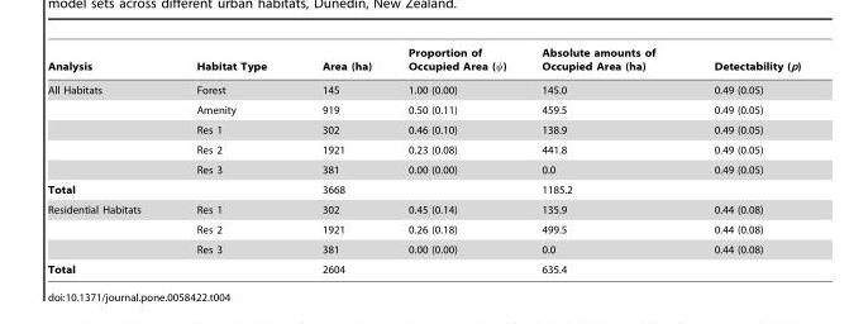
<table><thead><tr><td>Analysis</td><td>Habitat Type</td><td>Area (ha)</td><td>Proportion of Occupied Area (y)</td><td>Absolute amounts of Occupied Area (ha)</td><td>Detectability (p)</td></tr></thead><tbody><tr><td rowspan="5">All Habitats</td><td>Forest</td><td>145</td><td>1.00 (0.00)</td><td>145.0</td><td>0.49 (0.05)</td></tr><tr><td>Amenity</td><td>919</td><td>0.50 (0.11)</td><td>459.5</td><td>0.49 (0.05)</td></tr><tr><td>Res 1</td><td>302</td><td>0.46 (0.10)</td><td>138.9</td><td>0.49 (0.05)</td></tr><tr><td>Res 2</td><td>1921</td><td>0.23 (0.08)</td><td>441.8</td><td>0.49 (0.05)</td></tr><tr><td>Res 3</td><td>381</td><td>0.00 (0.00)</td><td>0.0</td><td>0.49 (0.05)</td></tr><tr><td>Total</td><td></td><td>3668</td><td></td><td>1185.2</td><td></td></tr><tr><td rowspan="3">Residential Habitats</td><td>Res 1</td><td>302</td><td>0.45 (0.14)</td><td>135.9</td><td>0.44 (0.08)</td></tr><tr><td>Res 2</td><td>1921</td><td>0.26 (0.18)</td><td>499.5</td><td>0.44 (0.08)</td></tr><tr><td>Res 3</td><td>381</td><td>0.00 (0.00)</td><td>0.0</td><td>0.44 (0.08)</td></tr><tr><td>Total</td><td></td><td>2604</td><td></td><td>635.4</td><td></td></tr></tbody></table>